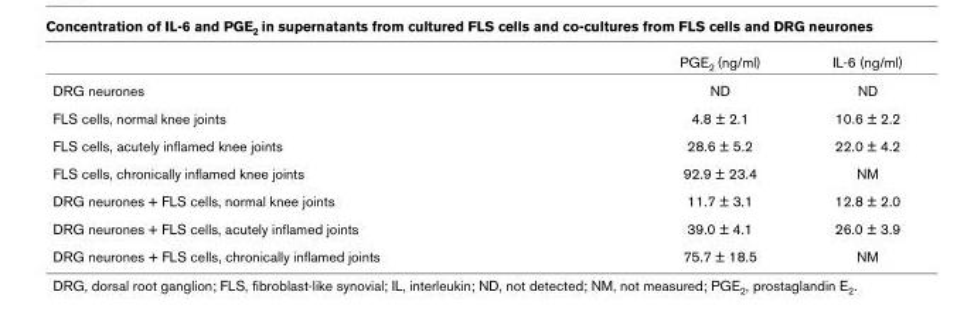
<table><thead><tr><td></td><td>PGE2 (ng/ml)</td><td>IL-6 (ng/ml)</td></tr></thead><tbody><tr><td>DRG neurones</td><td>ND</td><td>ND</td></tr><tr><td>FLS cells, normal knee joints</td><td>4.8 ± 2.1</td><td>10.6 ± 2.2</td></tr><tr><td>FLS cells, acutely inflamed knee joints</td><td>28.6 ± 5.2</td><td>22.0 ± 4.2</td></tr><tr><td>FLS cells, chronically inflamed knee joints</td><td>92.9 ± 23.4</td><td>NM</td></tr><tr><td>DRG neurones + FLS cells, normal knee joints</td><td>11.7 ± 3.1</td><td>12.8 ± 2.0</td></tr><tr><td>DRG neurones + FLS cells, acutely inflamed joints</td><td>39.0 ± 4.1</td><td>26.0 ± 3.9</td></tr><tr><td>DRG neurones + FLS cells, chronically inflamed joints</td><td>75.7 ± 18.5</td><td>NM</td></tr></tbody></table>